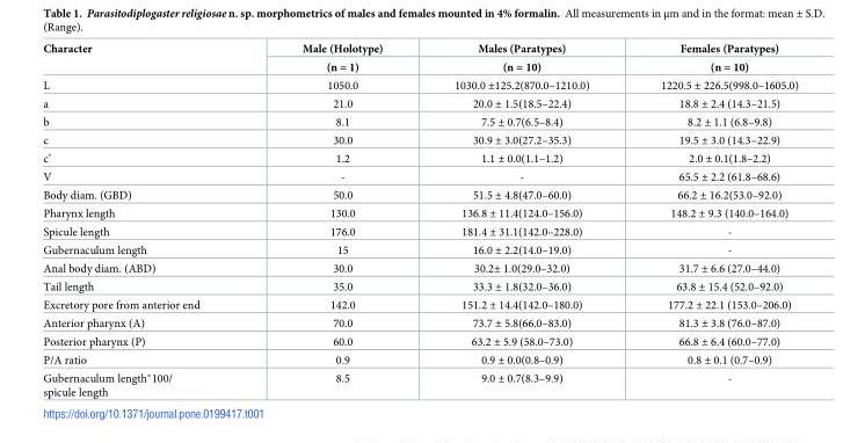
<table><thead><tr><td rowspan="2">Character</td><td rowspan="2">Male (Holotype) (n = 1)</td><td rowspan="2">Males (Paratypes) (n = 10)</td><td rowspan="2">Females (Paratypes) (n = 10)</td></tr><tr></tr></thead><tbody><tr><td>L</td><td>1050.0</td><td>1030.0 ±125.2(870.0–1210.0)</td><td>1220.5 ± 226.5(998.0–1605.0)</td></tr><tr><td>a</td><td>21.0</td><td>20.0 ± 1.5(18.5–22.4)</td><td>18.8 ± 2.4 (14.3–21.5)</td></tr><tr><td>b</td><td>8.1</td><td>7.5 ± 0.7(6.5–8.4)</td><td>8.2 ± 1.1 (6.8–9.8)</td></tr><tr><td>c</td><td>30.0</td><td>30.9 ± 3.0(27.2–35.3)</td><td>19.5 ± 3.0 (14.3–22.9)</td></tr><tr><td>c’</td><td>1.2</td><td>1.1 ± 0.0(1.1–1.2)</td><td>2.0 ± 0.1(1.8–2.2)</td></tr><tr><td>V</td><td>-</td><td>-</td><td>65.5 ± 2.2 (61.8–68.6)</td></tr><tr><td>Body diam. (GBD)</td><td>50.0</td><td>51.5 ± 4.8(47.0–60.0)</td><td>66.2 ± 16.2(53.0–92.0)</td></tr><tr><td>Pharynx length</td><td>130.0</td><td>136.8 ± 11.4(124.0–156.0)</td><td>148.2 ± 9.3 (140.0–164.0)</td></tr><tr><td>Spicule length</td><td>176.0</td><td>181.4 ± 31.1(142.0–228.0)</td><td>-</td></tr><tr><td>Gubernaculum length</td><td>15</td><td>16.0 ± 2.2(14.0–19.0)</td><td>-</td></tr><tr><td>Anal body diam. (ABD)</td><td>30.0</td><td>30.2± 1.0(29.0–32.0)</td><td>31.7 ± 6.6 (27.0–44.0)</td></tr><tr><td>Tail length</td><td>35.0</td><td>33.3 ± 1.8(32.0–36.0)</td><td>63.8 ± 15.4 (52.0–92.0)</td></tr><tr><td>Excretory pore from anterior end</td><td>142.0</td><td>151.2 ± 14.4(142.0–180.0)</td><td>177.2 ± 22.1 (153.0–206.0)</td></tr><tr><td>Anterior pharynx (A)</td><td>70.0</td><td>73.7 ± 5.8(66.0–83.0)</td><td>81.3 ± 3.8 (76.0–87.0)</td></tr><tr><td>Posterior pharynx (P)</td><td>60.0</td><td>63.2 ± 5.9 (58.0–73.0)</td><td>66.8 ± 6.4 (60.0–77.0)</td></tr><tr><td>P/A ratio</td><td>0.9</td><td>0.9 ± 0.0(0.8–0.9)</td><td>0.8 ± 0.1 (0.7–0.9)</td></tr><tr><td>Gubernaculum length*100/ spicule length</td><td>8.5</td><td>9.0 ± 0.7(8.3–9.9)</td><td>-</td></tr></tbody></table>